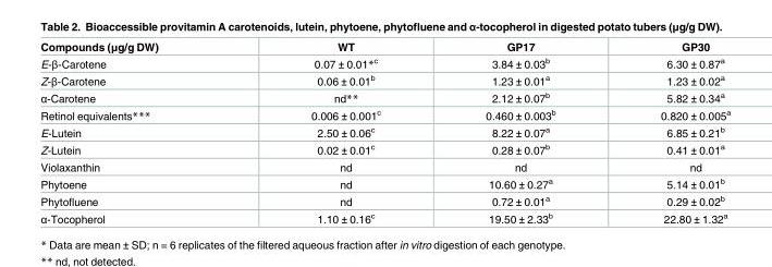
<table><thead><tr><td>Compounds (μg/g DW)</td><td>WT</td><td>GP17</td><td>GP30</td></tr></thead><tbody><tr><td>E-β-Carotene</td><td>0.07 ± 0.01*<sup>c</sup></td><td>3.84 ± 0.03<sup>b</sup></td><td>6.30 ± 0.87<sup>a</sup></td></tr><tr><td>Z-β-Carotene</td><td>0.06 ± 0.01<sup>b</sup></td><td>1.23 ± 0.01<sup>a</sup></td><td>1.23 ± 0.02<sup>a</sup></td></tr><tr><td>α-Carotene</td><td>nd**</td><td>2.12 ± 0.07<sup>b</sup></td><td>5.82 ± 0.34<sup>a</sup></td></tr><tr><td>Retinol equivalents***</td><td>0.006 ± 0.001<sup>c</sup></td><td>0.460 ± 0.003<sup>b</sup></td><td>0.820 ± 0.005<sup>a</sup></td></tr><tr><td>E-Lutein</td><td>2.50 ± 0.06<sup>c</sup></td><td>8.22 ± 0.07<sup>a</sup></td><td>6.85 ± 0.21<sup>b</sup></td></tr><tr><td>Z-Lutein</td><td>0.02 ± 0.01<sup>c</sup></td><td>0.28 ± 0.07<sup>b</sup></td><td>0.41 ± 0.01<sup>a</sup></td></tr><tr><td>Violaxanthin</td><td>nd</td><td>nd</td><td>nd</td></tr><tr><td>Phytoene</td><td>nd</td><td>10.60 ± 0.27<sup>a</sup></td><td>5.14 ± 0.01<sup>b</sup></td></tr><tr><td>Phytofluene</td><td>nd</td><td>0.72 ± 0.01<sup>a</sup></td><td>0.29 ± 0.02<sup>b</sup></td></tr><tr><td>α-Tocopherol</td><td>1.10 ± 0.16<sup>c</sup></td><td>19.50 ± 2.33<sup>b</sup></td><td>22.80 ± 1.32<sup>a</sup></td></tr></tbody></table>